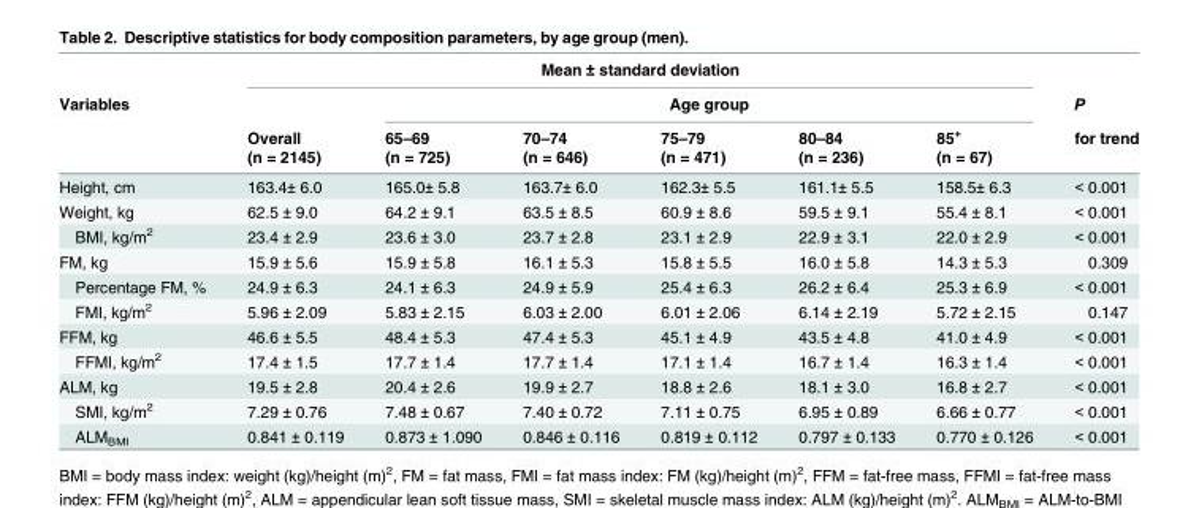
<table><thead><tr><td rowspan="4">Variables</td><td colspan="6">Mean ± standard deviation</td><td rowspan="4">P for trend</td></tr><tr><td rowspan="3">Overall (n = 2145)</td><td colspan="5">Age group</td></tr><tr><td rowspan="2">65–69 (n = 725)</td><td rowspan="2">70–74 (n = 646)</td><td rowspan="2">75–79 (n = 471)</td><td rowspan="2">80–84 (n = 236)</td><td rowspan="2">85<sup>+</sup> (n = 67)</td></tr><tr></tr></thead><tbody><tr><td>Height, cm</td><td>163.4± 6.0</td><td>165.0± 5.8</td><td>163.7± 6.0</td><td>162.3± 5.5</td><td>161.1± 5.5</td><td>158.5± 6.3</td><td>&lt; 0.001</td></tr><tr><td>Weight, kg</td><td>62.5 ± 9.0</td><td>64.2 ± 9.1</td><td>63.5 ± 8.5</td><td>60.9 ± 8.6</td><td>59.5 ± 9.1</td><td>55.4 ± 8.1</td><td>&lt; 0.001</td></tr><tr><td>BMI, kg/m<sup>2</sup></td><td>23.4 ± 2.9</td><td>23.6 ± 3.0</td><td>23.7 ± 2.8</td><td>23.1 ± 2.9</td><td>22.9 ± 3.1</td><td>22.0 ± 2.9</td><td>&lt; 0.001</td></tr><tr><td>FM, kg</td><td>15.9 ± 5.6</td><td>15.9 ± 5.8</td><td>16.1 ± 5.3</td><td>15.8 ± 5.5</td><td>16.0 ± 5.8</td><td>14.3 ± 5.3</td><td>0.309</td></tr><tr><td>Percentage FM, %</td><td>24.9 ± 6.3</td><td>24.1 ± 6.3</td><td>24.9 ± 5.9</td><td>25.4 ± 6.3</td><td>26.2 ± 6.4</td><td>25.3 ± 6.9</td><td>&lt; 0.001</td></tr><tr><td>FMI, kg/m<sup>2</sup></td><td>5.96 ± 2.09</td><td>5.83 ± 2.15</td><td>6.03 ± 2.00</td><td>6.01 ± 2.06</td><td>6.14 ± 2.19</td><td>5.72 ± 2.15</td><td>0.147</td></tr><tr><td>FFM, kg</td><td>46.6 ± 5.5</td><td>48.4 ± 5.3</td><td>47.4 ± 5.3</td><td>45.1 ± 4.9</td><td>43.5 ± 4.8</td><td>41.0 ± 4.9</td><td>&lt; 0.001</td></tr><tr><td>FFMI, kg/m<sup>2</sup></td><td>17.4 ± 1.5</td><td>17.7 ± 1.4</td><td>17.7 ± 1.4</td><td>17.1 ± 1.4</td><td>16.7 ± 1.4</td><td>16.3 ± 1.4</td><td>&lt; 0.001</td></tr><tr><td>ALM, kg</td><td>19.5 ± 2.8</td><td>20.4 ± 2.6</td><td>19.9 ± 2.7</td><td>18.8 ± 2.6</td><td>18.1 ± 3.0</td><td>16.8 ± 2.7</td><td>&lt; 0.001</td></tr><tr><td>SMI, kg/m<sup>2</sup></td><td>7.29 ± 0.76</td><td>7.48 ± 0.67</td><td>7.40 ± 0.72</td><td>7.11 ± 0.75</td><td>6.95 ± 0.89</td><td>6.66 ± 0.77</td><td>&lt; 0.001</td></tr><tr><td>ALM<sub>BMI</sub></td><td>0.841 ± 0.119</td><td>0.873 ± 1.090</td><td>0.846 ± 0.116</td><td>0.819 ± 0.112</td><td>0.797 ± 0.133</td><td>0.770 ± 0.126</td><td>&lt; 0.001</td></tr></tbody></table>